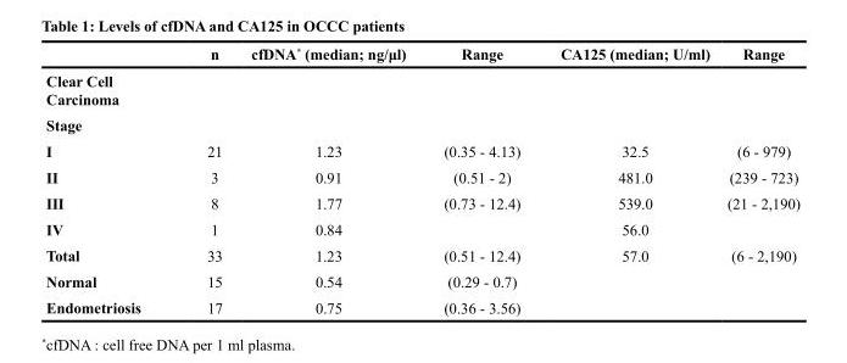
<table><thead><tr><td></td><td>n</td><td>cfDNA* (median; ng/μl)</td><td>Range</td><td>CA125 (median; U/ml)</td><td>Range</td></tr></thead><tbody><tr><td colspan="6">Clear Cell Carcinoma</td></tr><tr><td colspan="6">Stage</td></tr><tr><td>I</td><td>21</td><td>1.23</td><td>(0.35 - 4.13)</td><td>32.5</td><td>(6 - 979)</td></tr><tr><td>II</td><td>3</td><td>0.91</td><td>(0.51 - 2)</td><td>481.0</td><td>(239 - 723)</td></tr><tr><td>III</td><td>8</td><td>1.77</td><td>(0.73 - 12.4)</td><td>539.0</td><td>(21 - 2,190)</td></tr><tr><td>IV</td><td>1</td><td>0.84</td><td></td><td>56.0</td><td></td></tr><tr><td>Total</td><td>33</td><td>1.23</td><td>(0.51 - 12.4)</td><td>57.0</td><td>(6 - 2,190)</td></tr><tr><td>Normal</td><td>15</td><td>0.54</td><td>(0.29 - 0.7)</td><td></td><td></td></tr><tr><td>Endometriosis</td><td>17</td><td>0.75</td><td>(0.36 - 3.56)</td><td></td><td></td></tr></tbody></table>